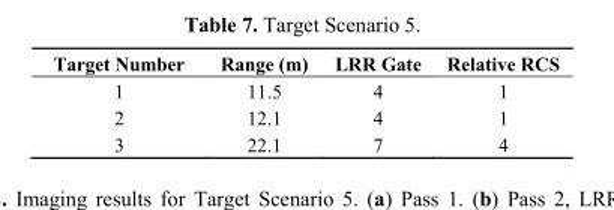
<table><thead><tr><td>Target Number</td><td>Range (m)</td><td>LRR Gate</td><td>Relative RCS</td></tr></thead><tbody><tr><td>1</td><td>11.5</td><td>4</td><td>1</td></tr><tr><td>2</td><td>12.1</td><td>4</td><td>1</td></tr><tr><td>3</td><td>22.1</td><td>7</td><td>4</td></tr></tbody></table>